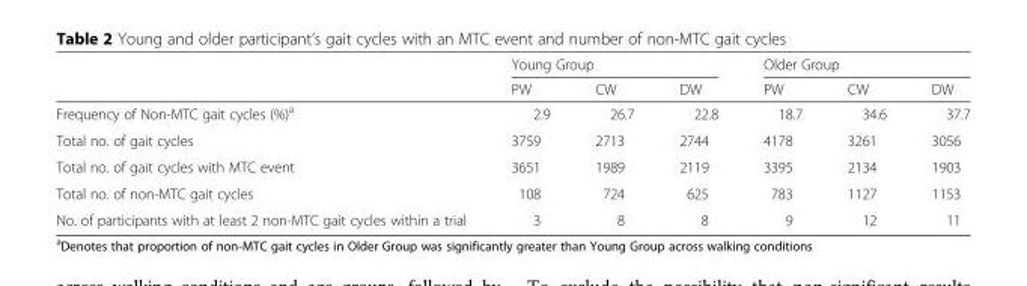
<table><thead><tr><td rowspan="2"></td><td colspan="3">Young Group</td><td colspan="3">Older Group</td></tr><tr><td>PW</td><td>CW</td><td>DW</td><td>PW</td><td>CW</td><td>DW</td></tr></thead><tbody><tr><td>Frequency of Non-MTC gait cycles (%)<sup>a</sup></td><td>2.9</td><td>26.7</td><td>22.8</td><td>18.7</td><td>34.6</td><td>37.7</td></tr><tr><td>Total no. of gait cycles</td><td>3759</td><td>2713</td><td>2744</td><td>4178</td><td>3261</td><td>3056</td></tr><tr><td>Total no. of gait cycles with MTC event</td><td>3651</td><td>1989</td><td>2119</td><td>3395</td><td>2134</td><td>1903</td></tr><tr><td>Total no. of non-MTC gait cycles</td><td>108</td><td>724</td><td>625</td><td>783</td><td>1127</td><td>1153</td></tr><tr><td>No. of participants with at least 2 non-MTC gait cycles within a trial</td><td>3</td><td>8</td><td>8</td><td>9</td><td>12</td><td>11</td></tr></tbody></table>